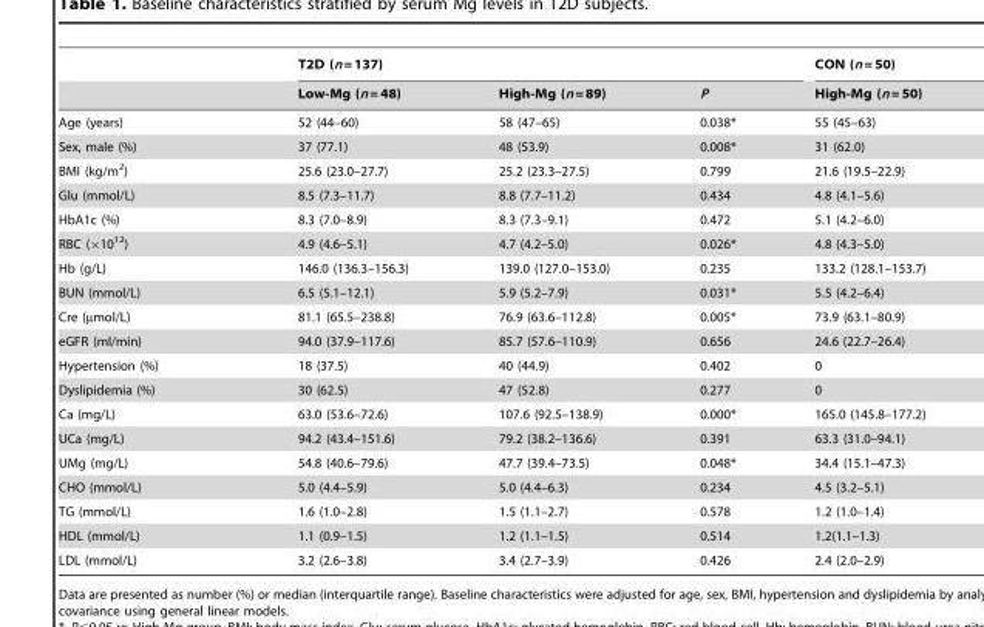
<table><thead><tr><td rowspan="2"></td><td colspan="3">T2D (n = 137)</td><td rowspan="2">CON (n = 50) High-Mg (n = 50)</td></tr><tr><td>Low-Mg (n = 48)</td><td>High-Mg (n = 89)</td><td>P</td></tr></thead><tbody><tr><td>Age (years)</td><td>52 (44–60)</td><td>58 (47–65)</td><td>0.038*</td><td>55 (45–63)</td></tr><tr><td>Sex, male (%)</td><td>37 (77.1)</td><td>48 (53.9)</td><td>0.008*</td><td>31 (62.0)</td></tr><tr><td>BMI (kg/m<sup>2</sup>)</td><td>25.6 (23.0–27.7)</td><td>25.2 (23.3–27.5)</td><td>0.799</td><td>21.6 (19.5–22.9)</td></tr><tr><td>Glu (mmol/L)</td><td>8.5 (7.3–11.7)</td><td>8.8 (7.7–11.2)</td><td>0.434</td><td>4.8 (4.1–5.6)</td></tr><tr><td>HbA1c (%)</td><td>8.3 (7.0–8.9)</td><td>8.3 (7.3–9.1)</td><td>0.472</td><td>5.1 (4.2–6.0)</td></tr><tr><td>RBC (×10<sup>12</sup>)</td><td>4.9 (4.6–5.1)</td><td>4.7 (4.2–5.0)</td><td>0.026*</td><td>4.8 (4.3–5.0)</td></tr><tr><td>Hb (g/L)</td><td>146.0 (136.3–156.3)</td><td>139.0 (127.0–153.0)</td><td>0.235</td><td>133.2 (128.1–153.7)</td></tr><tr><td>BUN (mmol/L)</td><td>6.5 (5.1–12.1)</td><td>5.9 (5.2–7.9)</td><td>0.031*</td><td>5.5 (4.2–6.4)</td></tr><tr><td>Cre (µmol/L)</td><td>81.1 (65.5–238.8)</td><td>76.9 (63.6–112.8)</td><td>0.005*</td><td>73.9 (63.1–80.9)</td></tr><tr><td>eGFR (ml/min)</td><td>94.0 (37.9–117.6)</td><td>85.7 (57.6–110.9)</td><td>0.656</td><td>24.6 (22.7–26.4)</td></tr><tr><td>Hypertension (%)</td><td>18 (37.5)</td><td>40 (44.9)</td><td>0.402</td><td>0</td></tr><tr><td>Dyslipidemia (%)</td><td>30 (62.5)</td><td>47 (52.8)</td><td>0.277</td><td>0</td></tr><tr><td>Ca (mg/L)</td><td>63.0 (53.6–72.6)</td><td>107.6 (92.5–138.9)</td><td>0.000*</td><td>165.0 (145.8–177.2)</td></tr><tr><td>UCa (mg/L)</td><td>94.2 (43.4–151.6)</td><td>79.2 (38.2–136.6)</td><td>0.391</td><td>63.3 (31.0–94.1)</td></tr><tr><td>UMg (mg/L)</td><td>54.8 (40.6–79.6)</td><td>47.7 (39.4–73.5)</td><td>0.048*</td><td>34.4 (15.1–47.3)</td></tr><tr><td>CHO (mmol/L)</td><td>5.0 (4.4–5.9)</td><td>5.0 (4.4–6.3)</td><td>0.234</td><td>4.5 (3.2–5.1)</td></tr><tr><td>TG (mmol/L)</td><td>1.6 (1.0–2.8)</td><td>1.5 (1.1–2.7)</td><td>0.578</td><td>1.2 (1.0–1.4)</td></tr><tr><td>HDL (mmol/L)</td><td>1.1 (0.9–1.5)</td><td>1.2 (1.1–1.5)</td><td>0.514</td><td>1.2(1.1–1.3)</td></tr><tr><td>LDL (mmol/L)</td><td>3.2 (2.6–3.8)</td><td>3.4 (2.7–3.9)</td><td>0.426</td><td>2.4 (2.0–2.9)</td></tr></tbody></table>